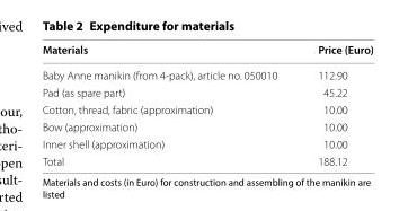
<table><thead><tr><td>Materials</td><td>Price (Euro)</td></tr></thead><tbody><tr><td>Baby Anne manikin (from 4-pack), article no. 050010</td><td>112.90</td></tr><tr><td>Pad (as spare part)</td><td>45.22</td></tr><tr><td>Cotton, thread, fabric (approximation)</td><td>10.00</td></tr><tr><td>Bow (approximation)</td><td>10.00</td></tr><tr><td>Inner shell (approximation)</td><td>10.00</td></tr><tr><td>Total</td><td>188.12</td></tr></tbody></table>